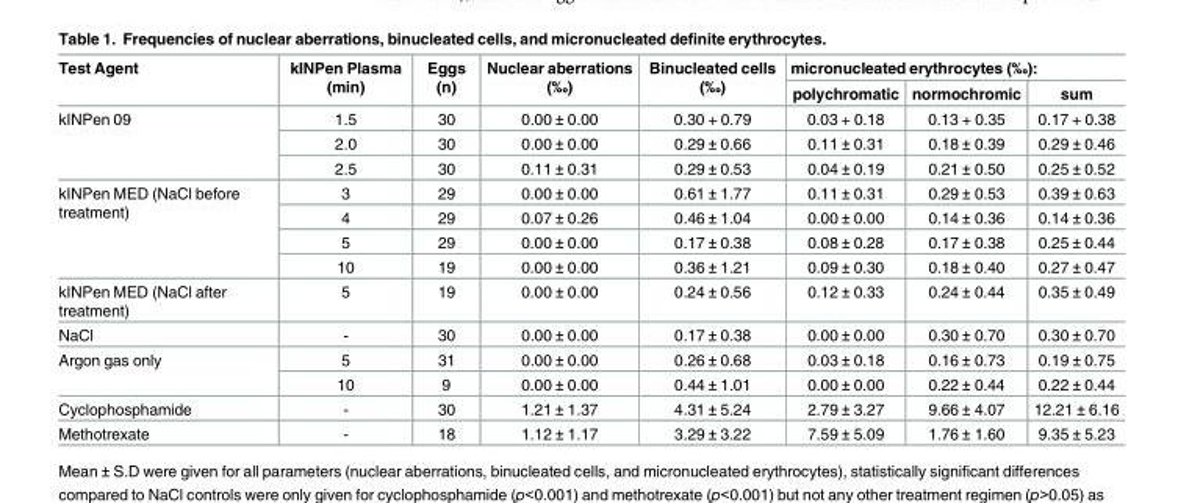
<table><thead><tr><td rowspan="2">Test Agent</td><td rowspan="2">kINPen Plasma (min)</td><td rowspan="2">Eggs (n)</td><td rowspan="2">Nuclear aberrations (‰)</td><td rowspan="2">Binucleated cells (‰)</td><td colspan="3">micronucleated erythrocytes (‰):</td></tr><tr><td>polychromatic</td><td>normochromic</td><td>sum</td></tr></thead><tbody><tr><td rowspan="3">kINPen 09</td><td>1.5</td><td>30</td><td>0.00 ± 0.00</td><td>0.30 + 0.79</td><td>0.03 + 0.18</td><td>0.13 + 0.35</td><td>0.17 + 0.38</td></tr><tr><td>2.0</td><td>30</td><td>0.00 ± 0.00</td><td>0.29 ± 0.66</td><td>0.11 ± 0.31</td><td>0.18 ± 0.39</td><td>0.29 ± 0.46</td></tr><tr><td>2.5</td><td>30</td><td>0.11 ± 0.31</td><td>0.29 ± 0.53</td><td>0.04 ± 0.19</td><td>0.21 ± 0.50</td><td>0.25 ± 0.52</td></tr><tr><td rowspan="4">kINPen MED (NaCl before treatment)</td><td>3</td><td>29</td><td>0.00 ± 0.00</td><td>0.61 ± 1.77</td><td>0.11 ± 0.31</td><td>0.29 ± 0.53</td><td>0.39 ± 0.63</td></tr><tr><td>4</td><td>29</td><td>0.07 ± 0.26</td><td>0.46 ± 1.04</td><td>0.00 ± 0.00</td><td>0.14 ± 0.36</td><td>0.14 ± 0.36</td></tr><tr><td>5</td><td>29</td><td>0.00 ± 0.00</td><td>0.17 ± 0.38</td><td>0.08 ± 0.28</td><td>0.17 ± 0.38</td><td>0.25 ± 0.44</td></tr><tr><td>10</td><td>19</td><td>0.00 ± 0.00</td><td>0.36 ± 1.21</td><td>0.09 ± 0.30</td><td>0.18 ± 0.40</td><td>0.27 ± 0.47</td></tr><tr><td>kINPen MED (NaCl after treatment)</td><td>5</td><td>19</td><td>0.00 ± 0.00</td><td>0.24 ± 0.56</td><td>0.12 ± 0.33</td><td>0.24 ± 0.44</td><td>0.35 ± 0.49</td></tr><tr><td>NaCl</td><td>-</td><td>30</td><td>0.00 ± 0.00</td><td>0.17 ± 0.38</td><td>0.00 ± 0.00</td><td>0.30 ± 0.70</td><td>0.30 ± 0.70</td></tr><tr><td rowspan="2">Argon gas only</td><td>5</td><td>31</td><td>0.00 ± 0.00</td><td>0.26 ± 0.68</td><td>0.03 ± 0.18</td><td>0.16 ± 0.73</td><td>0.19 ± 0.75</td></tr><tr><td>10</td><td>9</td><td>0.00 ± 0.00</td><td>0.44 ± 1.01</td><td>0.00 ± 0.00</td><td>0.22 ± 0.44</td><td>0.22 ± 0.44</td></tr><tr><td>Cyclophosphamide</td><td>-</td><td>30</td><td>1.21 ± 1.37</td><td>4.31 ± 5.24</td><td>2.79 ± 3.27</td><td>9.66 ± 4.07</td><td>12.21 ± 6.16</td></tr><tr><td>Methotrexate</td><td>-</td><td>18</td><td>1.12 ± 1.17</td><td>3.29 ± 3.22</td><td>7.59 ± 5.09</td><td>1.76 ± 1.60</td><td>9.35 ± 5.23</td></tr></tbody></table>